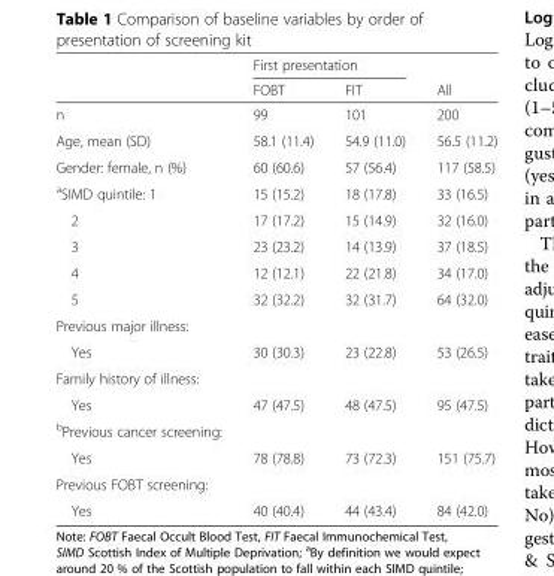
<table><thead><tr><td rowspan="2"></td><td colspan="2">First presentation</td><td rowspan="2">All</td></tr><tr><td>FOBT</td><td>FIT</td></tr></thead><tbody><tr><td>n</td><td>99</td><td>101</td><td>200</td></tr><tr><td>Age, mean (SD)</td><td>58.1 (11.4)</td><td>54.9 (11.0)</td><td>56.5 (11.2)</td></tr><tr><td>Gender: female, n (%)</td><td>60 (60.6)</td><td>57 (56.4)</td><td>117 (58.5)</td></tr><tr><td><sup>a</sup>SIMD quintile: 1</td><td>15 (15.2)</td><td>18 (17.8)</td><td>33 (16.5)</td></tr><tr><td>2</td><td>17 (17.2)</td><td>15 (14.9)</td><td>32 (16.0)</td></tr><tr><td>3</td><td>23 (23.2)</td><td>14 (13.9)</td><td>37 (18.5)</td></tr><tr><td>4</td><td>12 (12.1)</td><td>22 (21.8)</td><td>34 (17.0)</td></tr><tr><td>5</td><td>32 (32.2)</td><td>32 (31.7)</td><td>64 (32.0)</td></tr><tr><td colspan="4">Previous major illness:</td></tr><tr><td>Yes</td><td>30 (30.3)</td><td>23 (22.8)</td><td>53 (26.5)</td></tr><tr><td colspan="4">Family history of illness:</td></tr><tr><td>Yes</td><td>47 (47.5)</td><td>48 (47.5)</td><td>95 (47.5)</td></tr><tr><td colspan="4"><sup>b</sup>Previous cancer screening:</td></tr><tr><td>Yes</td><td>78 (78.8)</td><td>73 (72.3)</td><td>151 (75.7)</td></tr><tr><td colspan="4">Previous FOBT screening:</td></tr><tr><td>Yes</td><td>40 (40.4)</td><td>44 (43.4)</td><td>84 (42.0)</td></tr></tbody></table>